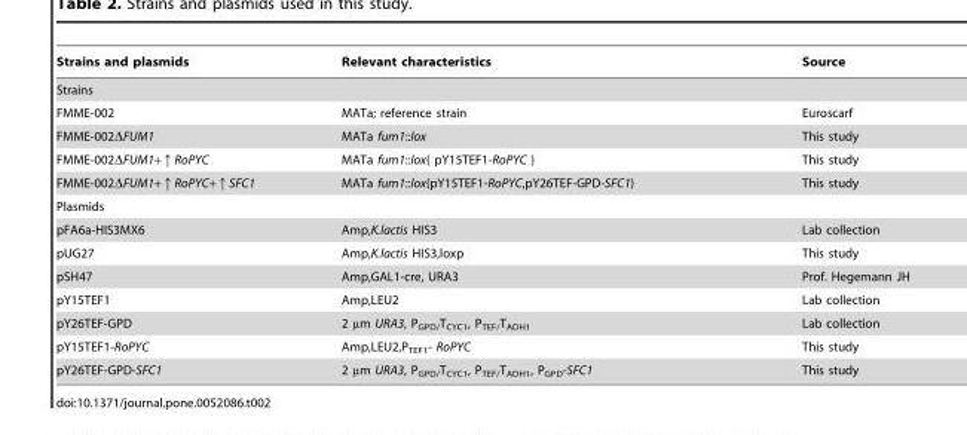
<table><thead><tr><td>Strains and plasmids</td><td>Relevant characteristics</td><td>Source</td></tr></thead><tbody><tr><td colspan="3">Strains</td></tr><tr><td>FMME-002</td><td>MATa; reference strain</td><td>Euroscarf</td></tr><tr><td>FMME-002ΔFUM1</td><td>MATa fum1::lox</td><td>This study</td></tr><tr><td>FMME-002ΔFUM1+↑RoPYC</td><td>MATa fum1::lox{ pY15TEF1-RoPYC }</td><td>This study</td></tr><tr><td>FMME-002ΔFUM1+↑RoPYC+↑SFC1</td><td>MATa fum1::lox{pY15TEF1-RoPYC,pY26TEF-GPD-SFC1}</td><td>This study</td></tr><tr><td colspan="3">Plasmids</td></tr><tr><td>pFA6a-HIS3MX6</td><td>Amp,K.lactis HIS3</td><td>Lab collection</td></tr><tr><td>pUG27</td><td>Amp,K.lactis HIS3,loxp</td><td>This study</td></tr><tr><td>pSH47</td><td>Amp,GAL1-cre, URA3</td><td>Prof. Hegemann JH</td></tr><tr><td>pY15TEF1</td><td>Amp,LEU2</td><td>Lab collection</td></tr><tr><td>pY26TEF-GPD</td><td>2 µm URA3, P<sub>GPD/</sub>T<sub>CYC1</sub>, P<sub>TEF/</sub>T<sub>ADH1</sub></td><td>Lab collection</td></tr><tr><td>pY15TEF1-RoPYC</td><td>Amp,LEU2,P<sub>TEF1</sub>- RoPYC</td><td>This study</td></tr><tr><td>pY26TEF-GPD-SFC1</td><td>2 µm URA3, P<sub>GPD/</sub>T<sub>CYC1</sub>, P<sub>TEF/</sub>T<sub>ADH1</sub>, P<sub>GPD</sub>-SFC1</td><td>This study</td></tr></tbody></table>